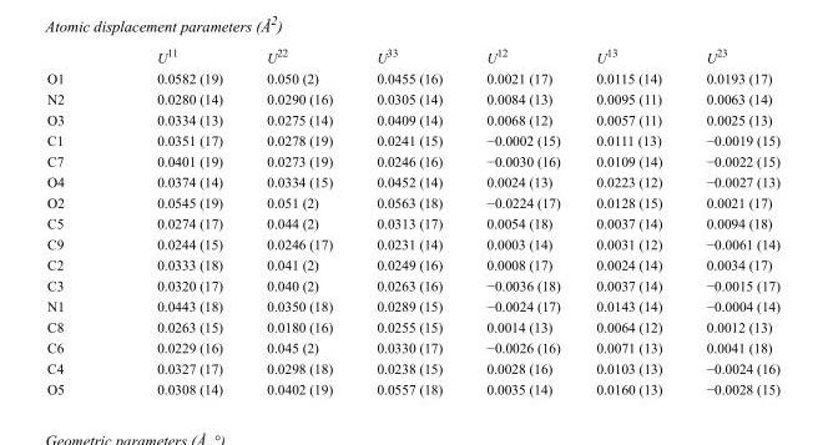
<table><thead><tr><td></td><td>U<sup>11</sup></td><td>U<sup>22</sup></td><td>U<sup>33</sup></td><td>U<sup>12</sup></td><td>U<sup>13</sup></td><td>U<sup>23</sup></td></tr></thead><tbody><tr><td>O1</td><td>0.0582 (19)</td><td>0.050 (2)</td><td>0.0455 (16)</td><td>0.0021 (17)</td><td>0.0115 (14)</td><td>0.0193 (17)</td></tr><tr><td>N2</td><td>0.0280 (14)</td><td>0.0290 (16)</td><td>0.0305 (14)</td><td>0.0084 (13)</td><td>0.0095 (11)</td><td>0.0063 (14)</td></tr><tr><td>O3</td><td>0.0334 (13)</td><td>0.0275 (14)</td><td>0.0409 (14)</td><td>0.0068 (12)</td><td>0.0057 (11)</td><td>0.0025 (13)</td></tr><tr><td>C1</td><td>0.0351 (17)</td><td>0.0278 (19)</td><td>0.0241 (15)</td><td>−0.0002 (15)</td><td>0.0111 (13)</td><td>−0.0019 (15)</td></tr><tr><td>C7</td><td>0.0401 (19)</td><td>0.0273 (19)</td><td>0.0246 (16)</td><td>−0.0030 (16)</td><td>0.0109 (14)</td><td>−0.0022 (15)</td></tr><tr><td>O4</td><td>0.0374 (14)</td><td>0.0334 (15)</td><td>0.0452 (14)</td><td>0.0024 (13)</td><td>0.0223 (12)</td><td>−0.0027 (13)</td></tr><tr><td>O2</td><td>0.0545 (19)</td><td>0.051 (2)</td><td>0.0563 (18)</td><td>−0.0224 (17)</td><td>0.0128 (15)</td><td>0.0021 (17)</td></tr><tr><td>C5</td><td>0.0274 (17)</td><td>0.044 (2)</td><td>0.0313 (17)</td><td>0.0054 (18)</td><td>0.0037 (14)</td><td>0.0094 (18)</td></tr><tr><td>C9</td><td>0.0244 (15)</td><td>0.0246 (17)</td><td>0.0231 (14)</td><td>0.0003 (14)</td><td>0.0031 (12)</td><td>−0.0061 (14)</td></tr><tr><td>C2</td><td>0.0333 (18)</td><td>0.041 (2)</td><td>0.0249 (16)</td><td>0.0008 (17)</td><td>0.0024 (14)</td><td>0.0034 (17)</td></tr><tr><td>C3</td><td>0.0320 (17)</td><td>0.040 (2)</td><td>0.0263 (16)</td><td>−0.0036 (18)</td><td>0.0037 (14)</td><td>−0.0015 (17)</td></tr><tr><td>N1</td><td>0.0443 (18)</td><td>0.0350 (18)</td><td>0.0289 (15)</td><td>−0.0024 (17)</td><td>0.0143 (14)</td><td>−0.0004 (14)</td></tr><tr><td>C8</td><td>0.0263 (15)</td><td>0.0180 (16)</td><td>0.0255 (15)</td><td>0.0014 (13)</td><td>0.0064 (12)</td><td>0.0012 (13)</td></tr><tr><td>C6</td><td>0.0229 (16)</td><td>0.045 (2)</td><td>0.0330 (17)</td><td>−0.0026 (16)</td><td>0.0071 (13)</td><td>0.0041 (18)</td></tr><tr><td>C4</td><td>0.0327 (17)</td><td>0.0298 (18)</td><td>0.0238 (15)</td><td>0.0028 (16)</td><td>0.0103 (13)</td><td>−0.0024 (16)</td></tr><tr><td>O5</td><td>0.0308 (14)</td><td>0.0402 (19)</td><td>0.0557 (18)</td><td>0.0035 (14)</td><td>0.0160 (13)</td><td>−0.0028 (15)</td></tr></tbody></table>